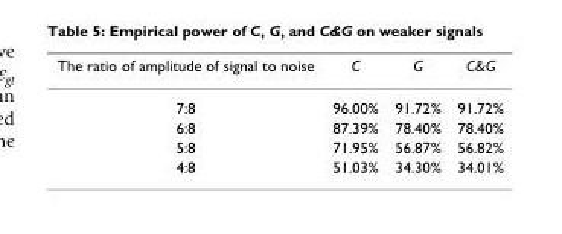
<table><thead><tr><td>The ratio of amplitude of signal to noise</td><td>C</td><td>G</td><td>C&amp;G</td></tr></thead><tbody><tr><td>7:8</td><td>96.00%</td><td>91.72%</td><td>91.72%</td></tr><tr><td>6:8</td><td>87.39%</td><td>78.40%</td><td>78.40%</td></tr><tr><td>5:8</td><td>71.95%</td><td>56.87%</td><td>56.82%</td></tr><tr><td>4:8</td><td>51.03%</td><td>34.30%</td><td>34.01%</td></tr></tbody></table>